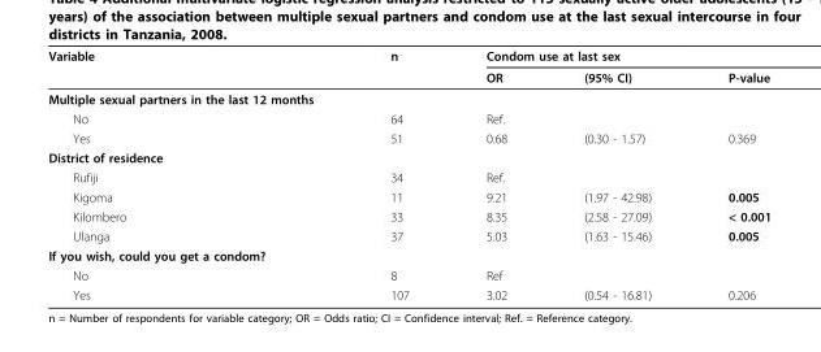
<table><thead><tr><td rowspan="2">Variable</td><td rowspan="2">n</td><td colspan="3">Condom use at last sex</td></tr><tr><td>OR</td><td>(95% CI)</td><td>P-value</td></tr></thead><tbody><tr><td colspan="5">Multiple sexual partners in the last 12 months</td></tr><tr><td>No</td><td>64</td><td>Ref.</td><td></td><td></td></tr><tr><td>Yes</td><td>51</td><td>0.68</td><td>(0.30 - 1.57)</td><td>0.369</td></tr><tr><td colspan="5">District of residence</td></tr><tr><td>Rufiji</td><td>34</td><td>Ref.</td><td></td><td></td></tr><tr><td>Kigoma</td><td>11</td><td>9.21</td><td>(1.97 - 42.98)</td><td>0.005</td></tr><tr><td>Kilombero</td><td>33</td><td>8.35</td><td>(2.58 - 27.09)</td><td>&lt; 0.001</td></tr><tr><td>Ulanga</td><td>37</td><td>5.03</td><td>(1.63 - 15.46)</td><td>0.005</td></tr><tr><td colspan="5">If you wish, could you get a condom?</td></tr><tr><td>No</td><td>8</td><td>Ref</td><td></td><td></td></tr><tr><td>Yes</td><td>107</td><td>3.02</td><td>(0.54 - 16.81)</td><td>0.206</td></tr></tbody></table>